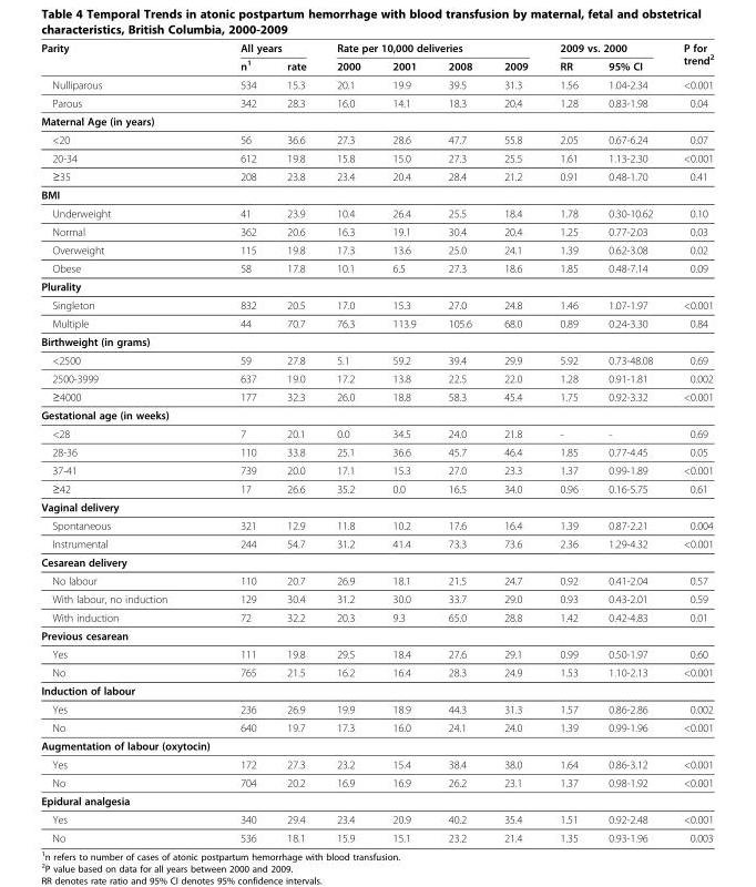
<table><thead><tr><td rowspan="2">Parity</td><td colspan="2">All years</td><td colspan="4">Rate per 10,000 deliveries</td><td colspan="2">2009 vs. 2000</td><td rowspan="2">P for trend<sup>2</sup></td></tr><tr><td>n<sup>1</sup></td><td>rate</td><td>2000</td><td>2001</td><td>2008</td><td>2009</td><td>RR</td><td>95% CI</td></tr></thead><tbody><tr><td>Nulliparous</td><td>534</td><td>15.3</td><td>20.1</td><td>19.9</td><td>39.5</td><td>31.3</td><td>1.56</td><td>1.04-2.34</td><td>&lt;0.001</td></tr><tr><td>Parous</td><td>342</td><td>28.3</td><td>16.0</td><td>14.1</td><td>18.3</td><td>20.4</td><td>1.28</td><td>0.83-1.98</td><td>0.04</td></tr><tr><td colspan="10">Maternal Age (in years)</td></tr><tr><td>&lt;20</td><td>56</td><td>36.6</td><td>27.3</td><td>28.6</td><td>47.7</td><td>55.8</td><td>2.05</td><td>0.67-6.24</td><td>0.07</td></tr><tr><td>20-34</td><td>612</td><td>19.8</td><td>15.8</td><td>15.0</td><td>27.3</td><td>25.5</td><td>1.61</td><td>1.13-2.30</td><td>&lt;0.001</td></tr><tr><td>≥35</td><td>208</td><td>23.8</td><td>23.4</td><td>20.4</td><td>28.4</td><td>21.2</td><td>0.91</td><td>0.48-1.70</td><td>0.41</td></tr><tr><td colspan="10">BMI</td></tr><tr><td>Underweight</td><td>41</td><td>23.9</td><td>10.4</td><td>26.4</td><td>25.5</td><td>18.4</td><td>1.78</td><td>0.30-10.62</td><td>0.10</td></tr><tr><td>Normal</td><td>362</td><td>20.6</td><td>16.3</td><td>19.1</td><td>30.4</td><td>20.4</td><td>1.25</td><td>0.77-2.03</td><td>0.03</td></tr><tr><td>Overweight</td><td>115</td><td>19.8</td><td>17.3</td><td>13.6</td><td>25.0</td><td>24.1</td><td>1.39</td><td>0.62-3.08</td><td>0.02</td></tr><tr><td>Obese</td><td>58</td><td>17.8</td><td>10.1</td><td>6.5</td><td>27.3</td><td>18.6</td><td>1.85</td><td>0.48-7.14</td><td>0.09</td></tr><tr><td colspan="10">Plurality</td></tr><tr><td>Singleton</td><td>832</td><td>20.5</td><td>17.0</td><td>15.3</td><td>27.0</td><td>24.8</td><td>1.46</td><td>1.07-1.97</td><td>&lt;0.001</td></tr><tr><td>Multiple</td><td>44</td><td>70.7</td><td>76.3</td><td>113.9</td><td>105.6</td><td>68.0</td><td>0.89</td><td>0.24-3.30</td><td>0.84</td></tr><tr><td colspan="10">Birthweight (in grams)</td></tr><tr><td>&lt;2500</td><td>59</td><td>27.8</td><td>5.1</td><td>59.2</td><td>39.4</td><td>29.9</td><td>5.92</td><td>0.73-48.08</td><td>0.69</td></tr><tr><td>2500-3999</td><td>637</td><td>19.0</td><td>17.2</td><td>13.8</td><td>22.5</td><td>22.0</td><td>1.28</td><td>0.91-1.81</td><td>0.002</td></tr><tr><td>≥4000</td><td>177</td><td>32.3</td><td>26.0</td><td>18.8</td><td>58.3</td><td>45.4</td><td>1.75</td><td>0.92-3.32</td><td>&lt;0.001</td></tr><tr><td colspan="10">Gestational age (in weeks)</td></tr><tr><td>&lt;28</td><td>7</td><td>20.1</td><td>0.0</td><td>34.5</td><td>24.0</td><td>21.8</td><td>-</td><td>-</td><td>0.69</td></tr><tr><td>28-36</td><td>110</td><td>33.8</td><td>25.1</td><td>36.6</td><td>45.7</td><td>46.4</td><td>1.85</td><td>0.77-4.45</td><td>0.05</td></tr><tr><td>37-41</td><td>739</td><td>20.0</td><td>17.1</td><td>15.3</td><td>27.0</td><td>23.3</td><td>1.37</td><td>0.99-1.89</td><td>&lt;0.001</td></tr><tr><td>≥42</td><td>17</td><td>26.6</td><td>35.2</td><td>0.0</td><td>16.5</td><td>34.0</td><td>0.96</td><td>0.16-5.75</td><td>0.61</td></tr><tr><td colspan="10">Vaginal delivery</td></tr><tr><td>Spontaneous</td><td>321</td><td>12.9</td><td>11.8</td><td>10.2</td><td>17.6</td><td>16.4</td><td>1.39</td><td>0.87-2.21</td><td>0.004</td></tr><tr><td>Instrumental</td><td>244</td><td>54.7</td><td>31.2</td><td>41.4</td><td>73.3</td><td>73.6</td><td>2.36</td><td>1.29-4.32</td><td>&lt;0.001</td></tr><tr><td colspan="10">Cesarean delivery</td></tr><tr><td>No labour</td><td>110</td><td>20.7</td><td>26.9</td><td>18.1</td><td>21.5</td><td>24.7</td><td>0.92</td><td>0.41-2.04</td><td>0.57</td></tr><tr><td>With labour, no induction</td><td>129</td><td>30.4</td><td>31.2</td><td>30.0</td><td>33.7</td><td>29.0</td><td>0.93</td><td>0.43-2.01</td><td>0.59</td></tr><tr><td>With induction</td><td>72</td><td>32.2</td><td>20.3</td><td>9.3</td><td>65.0</td><td>28.8</td><td>1.42</td><td>0.42-4.83</td><td>0.01</td></tr><tr><td colspan="10">Previous cesarean</td></tr><tr><td>Yes</td><td>111</td><td>19.8</td><td>29.5</td><td>18.4</td><td>27.6</td><td>29.1</td><td>0.99</td><td>0.50-1.97</td><td>0.60</td></tr><tr><td>No</td><td>765</td><td>21.5</td><td>16.2</td><td>16.4</td><td>28.3</td><td>24.9</td><td>1.53</td><td>1.10-2.13</td><td>&lt;0.001</td></tr><tr><td colspan="10">Induction of labour</td></tr><tr><td>Yes</td><td>236</td><td>26.9</td><td>19.9</td><td>18.9</td><td>44.3</td><td>31.3</td><td>1.57</td><td>0.86-2.86</td><td>0.002</td></tr><tr><td>No</td><td>640</td><td>19.7</td><td>17.3</td><td>16.0</td><td>24.1</td><td>24.0</td><td>1.39</td><td>0.99-1.96</td><td>&lt;0.001</td></tr><tr><td colspan="10">Augmentation of labour (oxytocin)</td></tr><tr><td>Yes</td><td>172</td><td>27.3</td><td>23.2</td><td>15.4</td><td>38.4</td><td>38.0</td><td>1.64</td><td>0.86-3.12</td><td>&lt;0.001</td></tr><tr><td>No</td><td>704</td><td>20.2</td><td>16.9</td><td>16.9</td><td>26.2</td><td>23.1</td><td>1.37</td><td>0.98-1.92</td><td>&lt;0.001</td></tr><tr><td colspan="10">Epidural analgesia</td></tr><tr><td>Yes</td><td>340</td><td>29.4</td><td>23.4</td><td>20.9</td><td>40.2</td><td>35.4</td><td>1.51</td><td>0.92-2.48</td><td>&lt;0.001</td></tr><tr><td>No</td><td>536</td><td>18.1</td><td>15.9</td><td>15.1</td><td>23.2</td><td>21.4</td><td>1.35</td><td>0.93-1.96</td><td>0.003</td></tr></tbody></table>